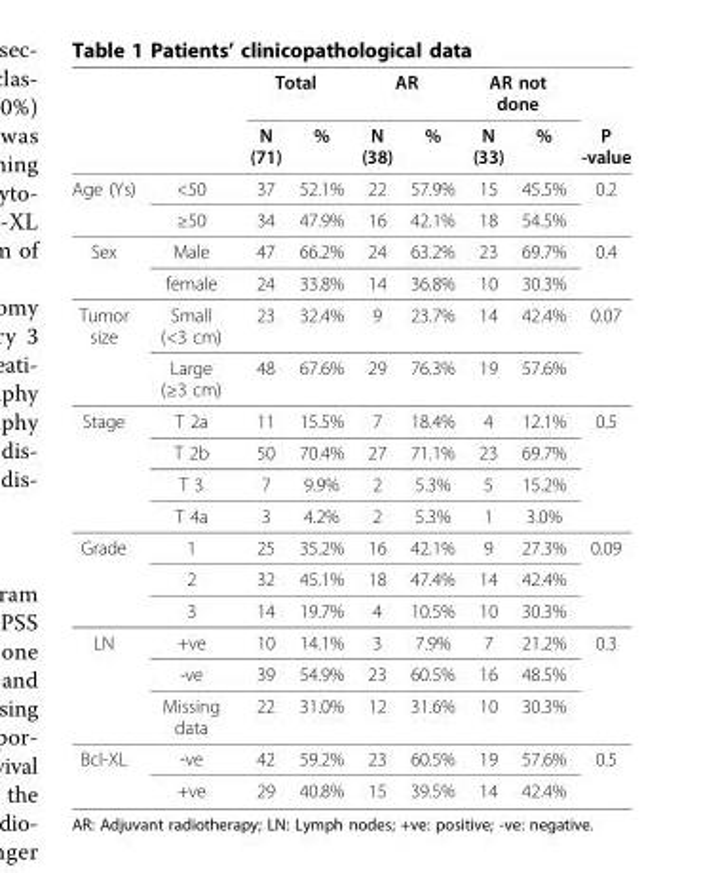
<table><thead><tr><td rowspan="2"></td><td rowspan="2"></td><td colspan="2">Total</td><td colspan="2">AR</td><td colspan="2">AR not done</td><td rowspan="2">P -value</td></tr><tr><td>N (71)</td><td>%</td><td>N (38)</td><td>%</td><td>N (33)</td><td>%</td></tr></thead><tbody><tr><td rowspan="2">Age (Ys)</td><td>&lt;50</td><td>37</td><td>52.1%</td><td>22</td><td>57.9%</td><td>15</td><td>45.5%</td><td>0.2</td></tr><tr><td>≥50</td><td>34</td><td>47.9%</td><td>16</td><td>42.1%</td><td>18</td><td>54.5%</td><td></td></tr><tr><td rowspan="2">Sex</td><td>Male</td><td>47</td><td>66.2%</td><td>24</td><td>63.2%</td><td>23</td><td>69.7%</td><td>0.4</td></tr><tr><td>female</td><td>24</td><td>33.8%</td><td>14</td><td>36.8%</td><td>10</td><td>30.3%</td><td></td></tr><tr><td rowspan="2">Tumor size</td><td>Small (&lt;3 cm)</td><td>23</td><td>32.4%</td><td>9</td><td>23.7%</td><td>14</td><td>42.4%</td><td>0.07</td></tr><tr><td>Large (≥3 cm)</td><td>48</td><td>67.6%</td><td>29</td><td>76.3%</td><td>19</td><td>57.6%</td><td></td></tr><tr><td rowspan="4">Stage</td><td>T 2a</td><td>11</td><td>15.5%</td><td>7</td><td>18.4%</td><td>4</td><td>12.1%</td><td>0.5</td></tr><tr><td>T 2b</td><td>50</td><td>70.4%</td><td>27</td><td>71.1%</td><td>23</td><td>69.7%</td><td></td></tr><tr><td>T 3</td><td>7</td><td>9.9%</td><td>2</td><td>5.3%</td><td>5</td><td>15.2%</td><td></td></tr><tr><td>T 4a</td><td>3</td><td>4.2%</td><td>2</td><td>5.3%</td><td>1</td><td>3.0%</td><td></td></tr><tr><td rowspan="3">Grade</td><td>1</td><td>25</td><td>35.2%</td><td>16</td><td>42.1%</td><td>9</td><td>27.3%</td><td>0.09</td></tr><tr><td>2</td><td>32</td><td>45.1%</td><td>18</td><td>47.4%</td><td>14</td><td>42.4%</td><td></td></tr><tr><td>3</td><td>14</td><td>19.7%</td><td>4</td><td>10.5%</td><td>10</td><td>30.3%</td><td></td></tr><tr><td rowspan="3">LN</td><td>+ve</td><td>10</td><td>14.1%</td><td>3</td><td>7.9%</td><td>7</td><td>21.2%</td><td>0.3</td></tr><tr><td>-ve</td><td>39</td><td>54.9%</td><td>23</td><td>60.5%</td><td>16</td><td>48.5%</td><td></td></tr><tr><td>Missing data</td><td>22</td><td>31.0%</td><td>12</td><td>31.6%</td><td>10</td><td>30.3%</td><td></td></tr><tr><td rowspan="2">Bcl-XL</td><td>-ve</td><td>42</td><td>59.2%</td><td>23</td><td>60.5%</td><td>19</td><td>57.6%</td><td>0.5</td></tr><tr><td>+ve</td><td>29</td><td>40.8%</td><td>15</td><td>39.5%</td><td>14</td><td>42.4%</td><td></td></tr></tbody></table>